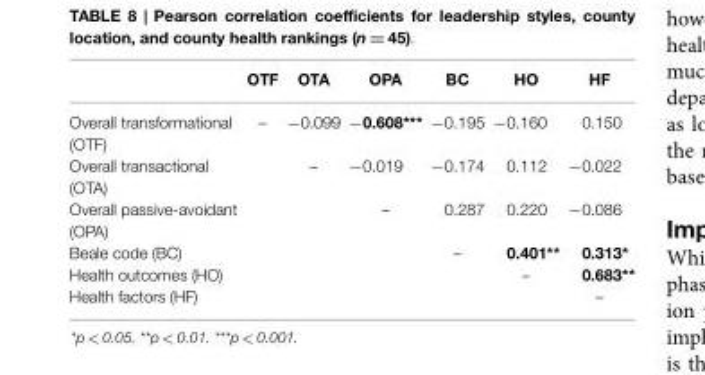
<table><thead><tr><td></td><td>OTF</td><td>OTA</td><td>OPA</td><td>BC</td><td>HO</td><td>HF</td></tr></thead><tbody><tr><td>Overall transformational (OTF)</td><td>–</td><td>−0.099</td><td>−0.608***</td><td>−0.195</td><td>−0.160</td><td>0.150</td></tr><tr><td>Overall transactional (OTA)</td><td></td><td>–</td><td>−0.019</td><td>−0.174</td><td>0.112</td><td>−0.022</td></tr><tr><td>Overall passive-avoidant (OPA)</td><td></td><td></td><td>–</td><td>0.287</td><td>0.220</td><td>−0.086</td></tr><tr><td>Beale code (BC)</td><td></td><td></td><td></td><td>–</td><td>0.401**</td><td>0.313*</td></tr><tr><td>Health outcomes (HO)</td><td></td><td></td><td></td><td></td><td>–</td><td>0.683**</td></tr><tr><td>Health factors (HF)</td><td></td><td></td><td></td><td></td><td></td><td>–</td></tr></tbody></table>